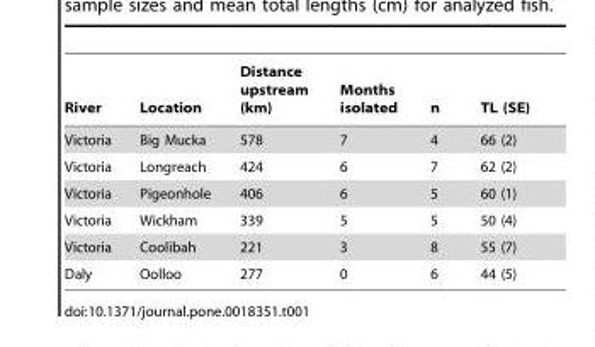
<table><thead><tr><td>River</td><td>Location</td><td>Distance upstream (km)</td><td>Months isolated</td><td>n</td><td>TL (SE)</td></tr></thead><tbody><tr><td>Victoria</td><td>Big Mucka</td><td>578</td><td>7</td><td>4</td><td>66 (2)</td></tr><tr><td>Victoria</td><td>Longreach</td><td>424</td><td>6</td><td>7</td><td>62 (2)</td></tr><tr><td>Victoria</td><td>Pigeonhole</td><td>406</td><td>6</td><td>5</td><td>60 (1)</td></tr><tr><td>Victoria</td><td>Wickham</td><td>339</td><td>5</td><td>5</td><td>50 (4)</td></tr><tr><td>Victoria</td><td>Coolibah</td><td>221</td><td>3</td><td>8</td><td>55 (7)</td></tr><tr><td>Daly</td><td>Oolloo</td><td>277</td><td>0</td><td>6</td><td>44 (5)</td></tr></tbody></table>